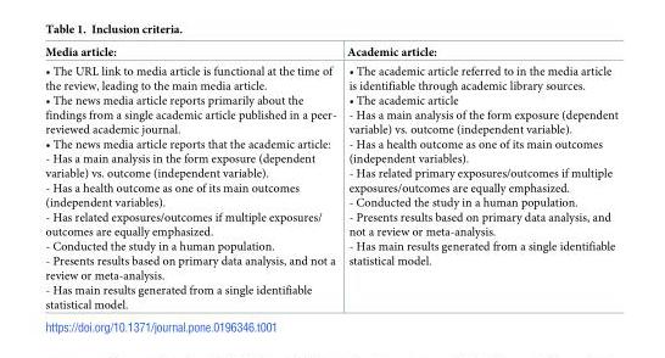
<table><thead><tr><td>Media article:</td><td>Academic article:</td></tr></thead><tbody><tr><td>• The URL link to media article is functional at the time of the review, leading to the main media article. • The news media article reports primarily about the findings from a single academic article published in a peer- reviewed academic journal. • The news media article reports that the academic article: - Has a main analysis in the form exposure (dependent variable) vs. outcome (independent variable). - Has a health outcome as one of its main outcomes (independent variables). - Has related exposures/outcomes if multiple exposures/ outcomes are equally emphasized. - Conducted the study in a human population. - Presents results based on primary data analysis, and not a review or meta-analysis. - Has main results generated from a single identifiable statistical model.</td><td>• The academic article referred to in the media article is identifiable through academic library sources. • The academic article - Has a main analysis of the form exposure (dependent variable) vs. outcome (independent variable). - Has a health outcome as one of its main outcomes (independent variables). - Has related primary exposures/outcomes if multiple exposures/outcomes are equally emphasized. - Conducted the study in a human population. - Presents results based on primary data analysis, and not a review or meta-analysis. - Has main results generated from a single identifiable statistical model.</td></tr></tbody></table>